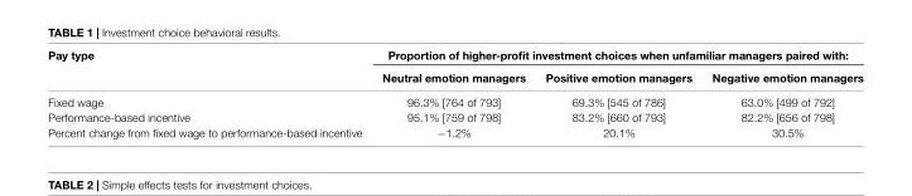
<table><thead><tr><td rowspan="2">Pay type</td><td colspan="3">Proportion of higher-profit investment choices when unfamiliar managers paired with:</td></tr><tr><td>Neutral emotion managers</td><td>Positive emotion managers</td><td>Negative emotion managers</td></tr></thead><tbody><tr><td>Fixed wage</td><td>96.3% [764 of 793]</td><td>69.3% [545 of 786]</td><td>63.0% [499 of 792]</td></tr><tr><td>Performance-based incentive</td><td>95.1% [759 of 798]</td><td>83.2% [660 of 793]</td><td>82.2% [656 of 798]</td></tr><tr><td>Percent change from fixed wage to performance-based incentive</td><td>−1.2%</td><td>20.1%</td><td>30.5%</td></tr></tbody></table>